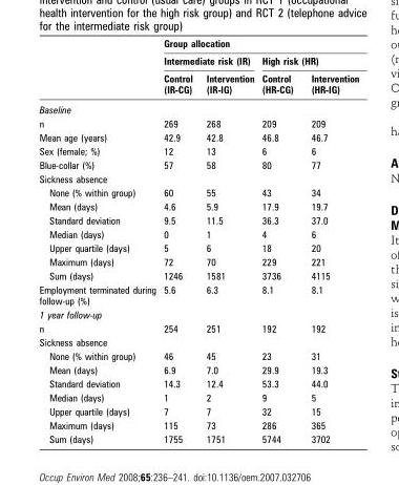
<table><thead><tr><td rowspan="3"></td><td colspan="4">Group allocation</td></tr><tr><td colspan="2">Intermediate risk (IR)</td><td colspan="2">High risk (HR)</td></tr><tr><td>Control (IR-CG)</td><td>Intervention (IR-IG)</td><td>Control (HR-CG)</td><td>Intervention (HR-IG)</td></tr></thead><tbody><tr><td colspan="5">Baseline</td></tr><tr><td>n</td><td>269</td><td>268</td><td>209</td><td>209</td></tr><tr><td>Mean age (years)</td><td>42.9</td><td>42.8</td><td>46.8</td><td>46.7</td></tr><tr><td>Sex (female; %)</td><td>12</td><td>13</td><td>6</td><td>6</td></tr><tr><td>Blue-collar (%)</td><td>57</td><td>58</td><td>80</td><td>77</td></tr><tr><td colspan="5">Sickness absence</td></tr><tr><td>None (% within group)</td><td>60</td><td>55</td><td>43</td><td>34</td></tr><tr><td>Mean (days)</td><td>4.6</td><td>5.9</td><td>17.9</td><td>19.7</td></tr><tr><td>Standard deviation</td><td>9.5</td><td>11.5</td><td>36.3</td><td>37.0</td></tr><tr><td>Median (days)</td><td>0</td><td>1</td><td>4</td><td>6</td></tr><tr><td>Upper quartile (days)</td><td>5</td><td>6</td><td>18</td><td>20</td></tr><tr><td>Maximum (days)</td><td>72</td><td>70</td><td>229</td><td>221</td></tr><tr><td>Sum (days)</td><td>1246</td><td>1581</td><td>3736</td><td>4115</td></tr><tr><td>Employment terminated during follow-up (%)</td><td>5.6</td><td>6.3</td><td>8.1</td><td>8.1</td></tr><tr><td colspan="5">1 year follow-up</td></tr><tr><td>n</td><td>254</td><td>251</td><td>192</td><td>192</td></tr><tr><td colspan="5">Sickness absence</td></tr><tr><td>None (% within group)</td><td>46</td><td>45</td><td>23</td><td>31</td></tr><tr><td>Mean (days)</td><td>6.9</td><td>7.0</td><td>29.9</td><td>19.3</td></tr><tr><td>Standard deviation</td><td>14.3</td><td>12.4</td><td>53.3</td><td>44.0</td></tr><tr><td>Median (days)</td><td>1</td><td>2</td><td>9</td><td>5</td></tr><tr><td>Upper quartile (days)</td><td>7</td><td>7</td><td>32</td><td>15</td></tr><tr><td>Maximum (days)</td><td>115</td><td>73</td><td>286</td><td>365</td></tr><tr><td>Sum (days)</td><td>1755</td><td>1751</td><td>5744</td><td>3702</td></tr></tbody></table>